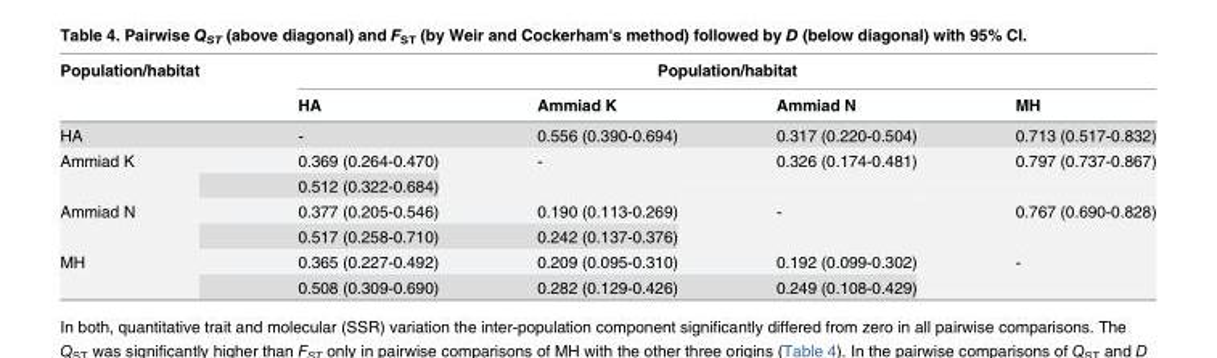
<table><thead><tr><td rowspan="2">Population/habitat</td><td colspan="4">Population/habitat</td></tr><tr><td>HA</td><td>Ammiad K</td><td>Ammiad N</td><td>MH</td></tr></thead><tbody><tr><td>HA</td><td>-</td><td>0.556 (0.390-0.694)</td><td>0.317 (0.220-0.504)</td><td>0.713 (0.517-0.832)</td></tr><tr><td rowspan="2">Ammiad K</td><td>0.369 (0.264-0.470)</td><td rowspan="2">-</td><td rowspan="2">0.326 (0.174-0.481)</td><td rowspan="2">0.797 (0.737-0.867)</td></tr><tr><td>0.512 (0.322-0.684)</td></tr><tr><td rowspan="2">Ammiad N</td><td>0.377 (0.205-0.546)</td><td>0.190 (0.113-0.269)</td><td rowspan="2">-</td><td rowspan="2">0.767 (0.690-0.828)</td></tr><tr><td>0.517 (0.258-0.710)</td><td>0.242 (0.137-0.376)</td></tr><tr><td rowspan="2">MH</td><td>0.365 (0.227-0.492)</td><td>0.209 (0.095-0.310)</td><td>0.192 (0.099-0.302)</td><td rowspan="2">-</td></tr><tr><td>0.508 (0.309-0.690)</td><td>0.282 (0.129-0.426)</td><td>0.249 (0.108-0.429)</td></tr></tbody></table>